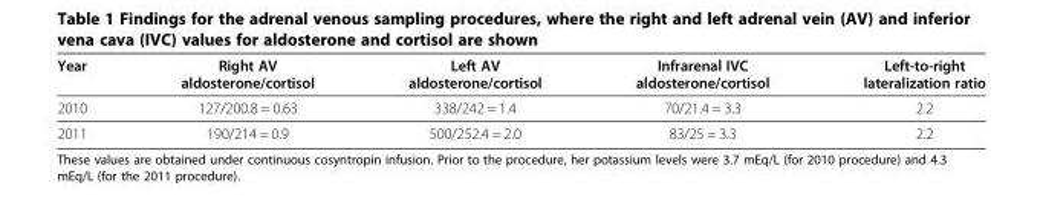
<table><thead><tr><td>Year</td><td>Right AV aldosterone/cortisol</td><td>Left AV aldosterone/cortisol</td><td>Infrarenal IVC aldosterone/cortisol</td><td>Left-to-right lateralization ratio</td></tr></thead><tbody><tr><td>2010</td><td>127/200.8 = 0.63</td><td>338/242 = 1.4</td><td>70/21.4 = 3.3</td><td>2.2</td></tr><tr><td>2011</td><td>190/214 = 0.9</td><td>500/252.4 = 2.0</td><td>83/25 = 3.3</td><td>2.2</td></tr></tbody></table>